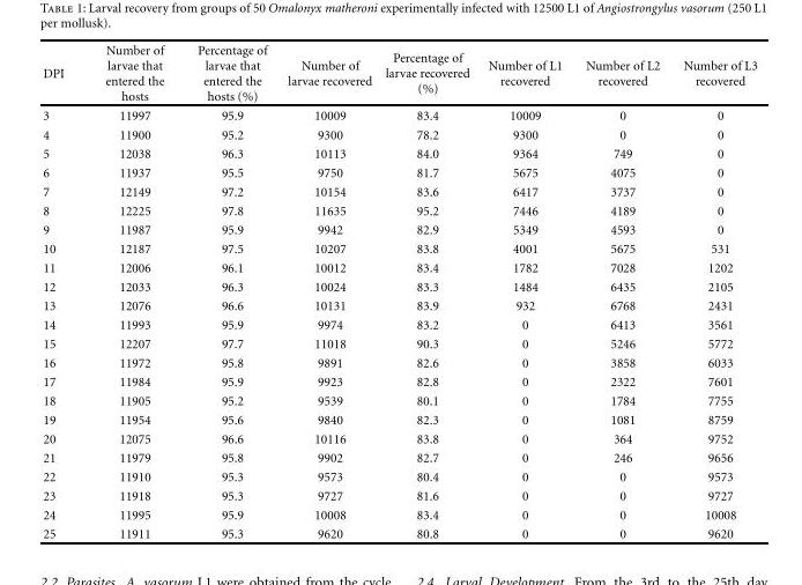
<table><thead><tr><td>DPI</td><td>Number of larvae that entered the hosts</td><td>Percentage of larvae that entered the hosts (%)</td><td>Number of larvae recovered</td><td>Percentage of larvae recovered (%)</td><td>Number of L1 recovered</td><td>Number of L2 recovered</td><td>Number of L3 recovered</td></tr></thead><tbody><tr><td>3</td><td>11997</td><td>95.9</td><td>10009</td><td>83.4</td><td>10009</td><td>0</td><td>0</td></tr><tr><td>4</td><td>11900</td><td>95.2</td><td>9300</td><td>78.2</td><td>9300</td><td>0</td><td>0</td></tr><tr><td>5</td><td>12038</td><td>96.3</td><td>10113</td><td>84.0</td><td>9364</td><td>749</td><td>0</td></tr><tr><td>6</td><td>11937</td><td>95.5</td><td>9750</td><td>81.7</td><td>5675</td><td>4075</td><td>0</td></tr><tr><td>7</td><td>12149</td><td>97.2</td><td>10154</td><td>83.6</td><td>6417</td><td>3737</td><td>0</td></tr><tr><td>8</td><td>12225</td><td>97.8</td><td>11635</td><td>95.2</td><td>7446</td><td>4189</td><td>0</td></tr><tr><td>9</td><td>11987</td><td>95.9</td><td>9942</td><td>82.9</td><td>5349</td><td>4593</td><td>0</td></tr><tr><td>10</td><td>12187</td><td>97.5</td><td>10207</td><td>83.8</td><td>4001</td><td>5675</td><td>531</td></tr><tr><td>11</td><td>12006</td><td>96.1</td><td>10012</td><td>83.4</td><td>1782</td><td>7028</td><td>1202</td></tr><tr><td>12</td><td>12033</td><td>96.3</td><td>10024</td><td>83.3</td><td>1484</td><td>6435</td><td>2105</td></tr><tr><td>13</td><td>12076</td><td>96.6</td><td>10131</td><td>83.9</td><td>932</td><td>6768</td><td>2431</td></tr><tr><td>14</td><td>11993</td><td>95.9</td><td>9974</td><td>83.2</td><td>0</td><td>6413</td><td>3561</td></tr><tr><td>15</td><td>12207</td><td>97.7</td><td>11018</td><td>90.3</td><td>0</td><td>5246</td><td>5772</td></tr><tr><td>16</td><td>11972</td><td>95.8</td><td>9891</td><td>82.6</td><td>0</td><td>3858</td><td>6033</td></tr><tr><td>17</td><td>11984</td><td>95.9</td><td>9923</td><td>82.8</td><td>0</td><td>2322</td><td>7601</td></tr><tr><td>18</td><td>11905</td><td>95.2</td><td>9539</td><td>80.1</td><td>0</td><td>1784</td><td>7755</td></tr><tr><td>19</td><td>11954</td><td>95.6</td><td>9840</td><td>82.3</td><td>0</td><td>1081</td><td>8759</td></tr><tr><td>20</td><td>12075</td><td>96.6</td><td>10116</td><td>83.8</td><td>0</td><td>364</td><td>9752</td></tr><tr><td>21</td><td>11979</td><td>95.8</td><td>9902</td><td>82.7</td><td>0</td><td>246</td><td>9656</td></tr><tr><td>22</td><td>11910</td><td>95.3</td><td>9573</td><td>80.4</td><td>0</td><td>0</td><td>9573</td></tr><tr><td>23</td><td>11918</td><td>95.3</td><td>9727</td><td>81.6</td><td>0</td><td>0</td><td>9727</td></tr><tr><td>24</td><td>11995</td><td>95.9</td><td>10008</td><td>83.4</td><td>0</td><td>0</td><td>10008</td></tr><tr><td>25</td><td>11911</td><td>95.3</td><td>9620</td><td>80.8</td><td>0</td><td>0</td><td>9620</td></tr></tbody></table>